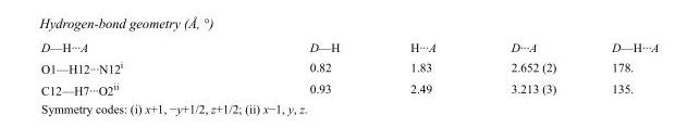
<table><tbody><tr><td>D—H···A</td><td>D—H</td><td>H···A</td><td>D···A</td><td>D—H···A</td></tr><tr><td>O1—H12···N12<sup>i</sup></td><td>0.82</td><td>1.83</td><td>2.652 (2)</td><td>178.</td></tr><tr><td>C12—H7···O2<sup>ii</sup></td><td>0.93</td><td>2.49</td><td>3.213 (3)</td><td>135.</td></tr></tbody></table>